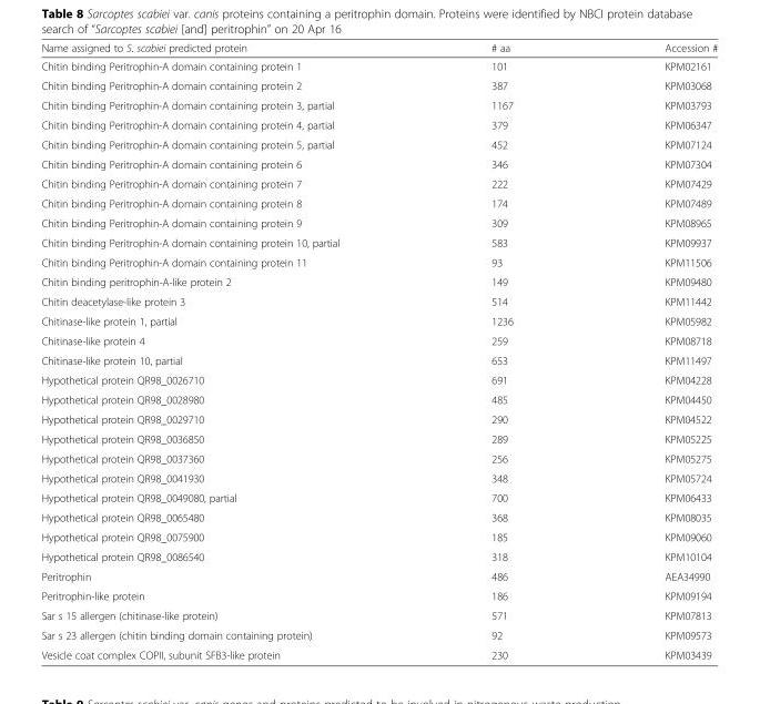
<table><thead><tr><td>Name assigned to S. scabiei predicted protein</td><td># aa</td><td>Accession #</td></tr></thead><tbody><tr><td>Chitin binding Peritrophin-A domain containing protein 1</td><td>101</td><td>KPM02161</td></tr><tr><td>Chitin binding Peritrophin-A domain containing protein 2</td><td>387</td><td>KPM03068</td></tr><tr><td>Chitin binding Peritrophin-A domain containing protein 3, partial</td><td>1167</td><td>KPM03793</td></tr><tr><td>Chitin binding Peritrophin-A domain containing protein 4, partial</td><td>379</td><td>KPM06347</td></tr><tr><td>Chitin binding Peritrophin-A domain containing protein 5, partial</td><td>452</td><td>KPM07124</td></tr><tr><td>Chitin binding Peritrophin-A domain containing protein 6</td><td>346</td><td>KPM07304</td></tr><tr><td>Chitin binding Peritrophin-A domain containing protein 7</td><td>222</td><td>KPM07429</td></tr><tr><td>Chitin binding Peritrophin-A domain containing protein 8</td><td>174</td><td>KPM07489</td></tr><tr><td>Chitin binding Peritrophin-A domain containing protein 9</td><td>309</td><td>KPM08965</td></tr><tr><td>Chitin binding Peritrophin-A domain containing protein 10, partial</td><td>583</td><td>KPM09937</td></tr><tr><td>Chitin binding Peritrophin-A domain containing protein 11</td><td>93</td><td>KPM11506</td></tr><tr><td>Chitin binding peritrophin-A-like protein 2</td><td>149</td><td>KPM09480</td></tr><tr><td>Chitin deacetylase-like protein 3</td><td>514</td><td>KPM11442</td></tr><tr><td>Chitinase-like protein 1, partial</td><td>1236</td><td>KPM05982</td></tr><tr><td>Chitinase-like protein 4</td><td>259</td><td>KPM08718</td></tr><tr><td>Chitinase-like protein 10, partial</td><td>653</td><td>KPM11497</td></tr><tr><td>Hypothetical protein QR98_0026710</td><td>691</td><td>KPM04228</td></tr><tr><td>Hypothetical protein QR98_0028980</td><td>485</td><td>KPM04450</td></tr><tr><td>Hypothetical protein QR98_0029710</td><td>290</td><td>KPM04522</td></tr><tr><td>Hypothetical protein QR98_0036850</td><td>289</td><td>KPM05225</td></tr><tr><td>Hypothetical protein QR98_0037360</td><td>256</td><td>KPM05275</td></tr><tr><td>Hypothetical protein QR98_0041930</td><td>348</td><td>KPM05724</td></tr><tr><td>Hypothetical protein QR98_0049080, partial</td><td>700</td><td>KPM06433</td></tr><tr><td>Hypothetical protein QR98_0065480</td><td>368</td><td>KPM08035</td></tr><tr><td>Hypothetical protein QR98_0075900</td><td>185</td><td>KPM09060</td></tr><tr><td>Hypothetical protein QR98_0086540</td><td>318</td><td>KPM10104</td></tr><tr><td>Peritrophin</td><td>486</td><td>AEA34990</td></tr><tr><td>Peritrophin-like protein</td><td>186</td><td>KPM09194</td></tr><tr><td>Sar s 15 allergen (chitinase-like protein)</td><td>571</td><td>KPM07813</td></tr><tr><td>Sar s 23 allergen (chitin binding domain containing protein)</td><td>92</td><td>KPM09573</td></tr><tr><td>Vesicle coat complex COPII, subunit SFB3-like protein</td><td>230</td><td>KPM03439</td></tr></tbody></table>